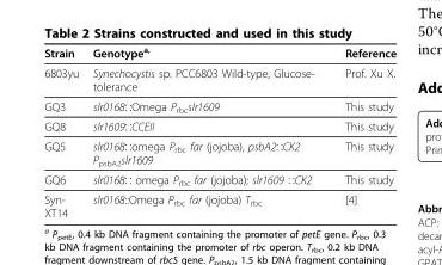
<table><thead><tr><td>Strain</td><td>Genotype<sup>a,</sup></td><td>Reference</td></tr></thead><tbody><tr><td>6803yu</td><td>Synechocystis sp. PCC6803 Wild-type, Glucose- tolerance</td><td>Prof. Xu X.</td></tr><tr><td>GQ3</td><td>slr0168∷Omega P<sub>rbc</sub>slr1609</td><td>This study</td></tr><tr><td>GQ8</td><td>slr1609∷CCEII</td><td>This study</td></tr><tr><td>GQ5</td><td>slr0168∷omega P<sub>rbc</sub> far (jojoba), psbA2∷CK2 P<sub>psbA2</sub>slr1609</td><td>This study</td></tr><tr><td>GQ6</td><td>slr0168∷ omega P<sub>rbc</sub> far (jojoba); slr1609 ∷CK2</td><td>This study</td></tr><tr><td>Syn- XT14</td><td>slr0168::Omega P<sub>rbc</sub> far (jojoba) T<sub>rbc</sub></td><td>[4]</td></tr></tbody></table>